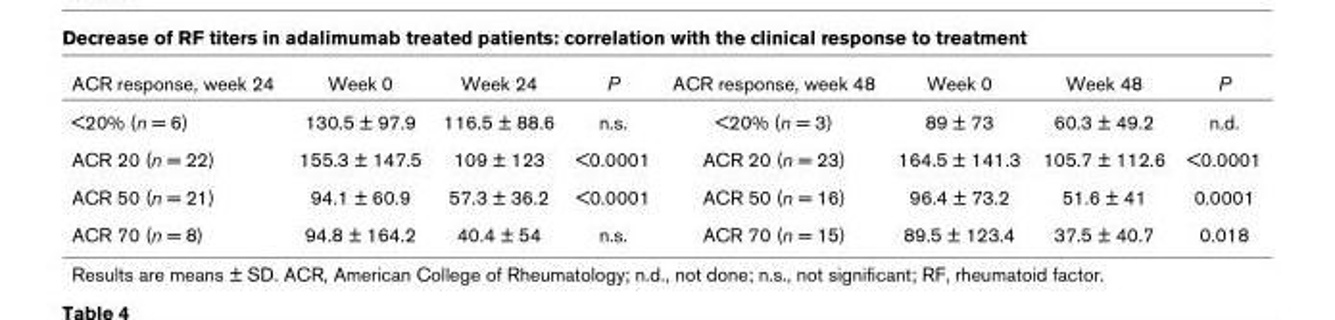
<table><thead><tr><td>ACR response, week 24</td><td>Week 0</td><td>Week 24</td><td>P</td><td>ACR response, week 48</td><td>Week 0</td><td>Week 48</td><td>P</td></tr></thead><tbody><tr><td>&lt;20% (n = 6)</td><td>130.5 ± 97.9</td><td>116.5 ± 88.6</td><td>n.s.</td><td>&lt;20% (n = 3)</td><td>89 ± 73</td><td>60.3 ± 49.2</td><td>n.d.</td></tr><tr><td>ACR 20 (n = 22)</td><td>155.3 ± 147.5</td><td>109 ± 123</td><td>&lt;0.0001</td><td>ACR 20 (n = 23)</td><td>164.5 ± 141.3</td><td>105.7 ± 112.6</td><td>&lt;0.0001</td></tr><tr><td>ACR 50 (n = 21)</td><td>94.1 ± 60.9</td><td>57.3 ± 36.2</td><td>&lt;0.0001</td><td>ACR 50 (n = 16)</td><td>96.4 ± 73.2</td><td>51.6 ± 41</td><td>0.0001</td></tr><tr><td>ACR 70 (n = 8)</td><td>94.8 ± 164.2</td><td>40.4 ± 54</td><td>n.s.</td><td>ACR 70 (n = 15)</td><td>89.5 ± 123.4</td><td>37.5 ± 40.7</td><td>0.018</td></tr></tbody></table>